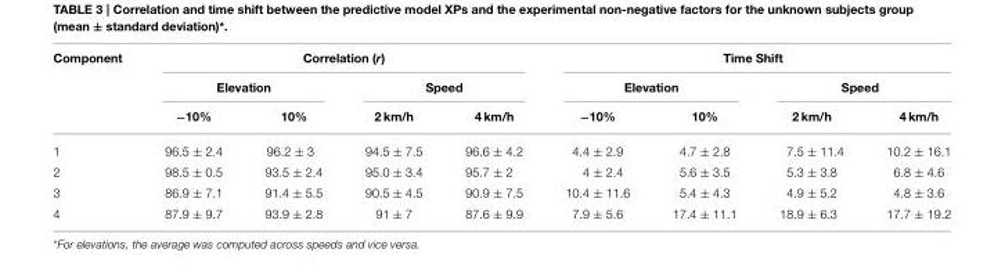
<table><thead><tr><td rowspan="3">Component</td><td colspan="4">Correlation (r)</td><td colspan="4">Time Shift</td></tr><tr><td colspan="2">Elevation</td><td colspan="2">Speed</td><td colspan="2">Elevation</td><td colspan="2">Speed</td></tr><tr><td>−10%</td><td>10%</td><td>2 km/h</td><td>4 km/h</td><td>−10%</td><td>10%</td><td>2 km/h</td><td>4 km/h</td></tr></thead><tbody><tr><td>1</td><td>96.5 ± 2.4</td><td>96.2 ± 3</td><td>94.5 ± 7.5</td><td>96.6 ± 4.2</td><td>4.4 ± 2.9</td><td>4.7 ± 2.8</td><td>7.5 ± 11.4</td><td>10.2 ± 16.1</td></tr><tr><td>2</td><td>98.5 ± 0.5</td><td>93.5 ± 2.4</td><td>95.0 ± 3.4</td><td>95.7 ± 2</td><td>4 ± 2.4</td><td>5.6 ± 3.5</td><td>5.3 ± 3.8</td><td>6.8 ± 4.6</td></tr><tr><td>3</td><td>86.9 ± 7.1</td><td>91.4 ± 5.5</td><td>90.5 ± 4.5</td><td>90.9 ± 7.5</td><td>10.4 ± 11.6</td><td>5.4 ± 4.3</td><td>4.9 ± 5.2</td><td>4.8 ± 3.6</td></tr><tr><td>4</td><td>87.9 ± 9.7</td><td>93.9 ± 2.8</td><td>91 ± 7</td><td>87.6 ± 9.9</td><td>7.9 ± 5.6</td><td>17.4 ± 11.1</td><td>18.9 ± 6.3</td><td>17.7 ± 19.2</td></tr></tbody></table>